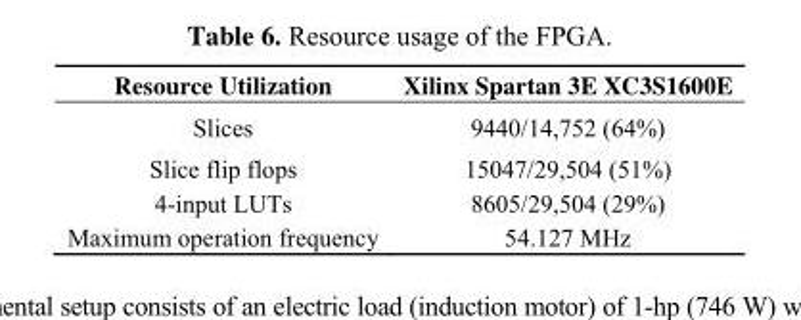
<table><thead><tr><td>Resource Utilization</td><td>Xilinx Spartan 3E XC3S1600E</td></tr></thead><tbody><tr><td>Slices</td><td>9440/14,752 (64%)</td></tr><tr><td>Slice flip flops</td><td>15047/29,504 (51%)</td></tr><tr><td>4-input LUTs</td><td>8605/29,504 (29%)</td></tr><tr><td>Maximum operation frequency</td><td>54.127 MHz</td></tr></tbody></table>